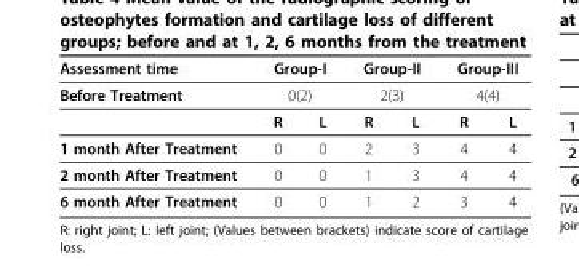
<table><thead><tr><td rowspan="3">Assessment time Before Treatment</td><td rowspan="2" colspan="2">Group-I 0(2)</td><td rowspan="2" colspan="2">Group-II 2(3)</td><td rowspan="2" colspan="2">Group-III 4(4)</td></tr><tr></tr><tr><td>R</td><td>L</td><td>R</td><td>L</td><td>R</td><td>L</td></tr></thead><tbody><tr><td>1 month After Treatment</td><td>0</td><td>0</td><td>2</td><td>3</td><td>4</td><td>4</td></tr><tr><td>2 month After Treatment</td><td>0</td><td>0</td><td>1</td><td>3</td><td>4</td><td>4</td></tr><tr><td>6 month After Treatment</td><td>0</td><td>0</td><td>1</td><td>2</td><td>3</td><td>4</td></tr></tbody></table>